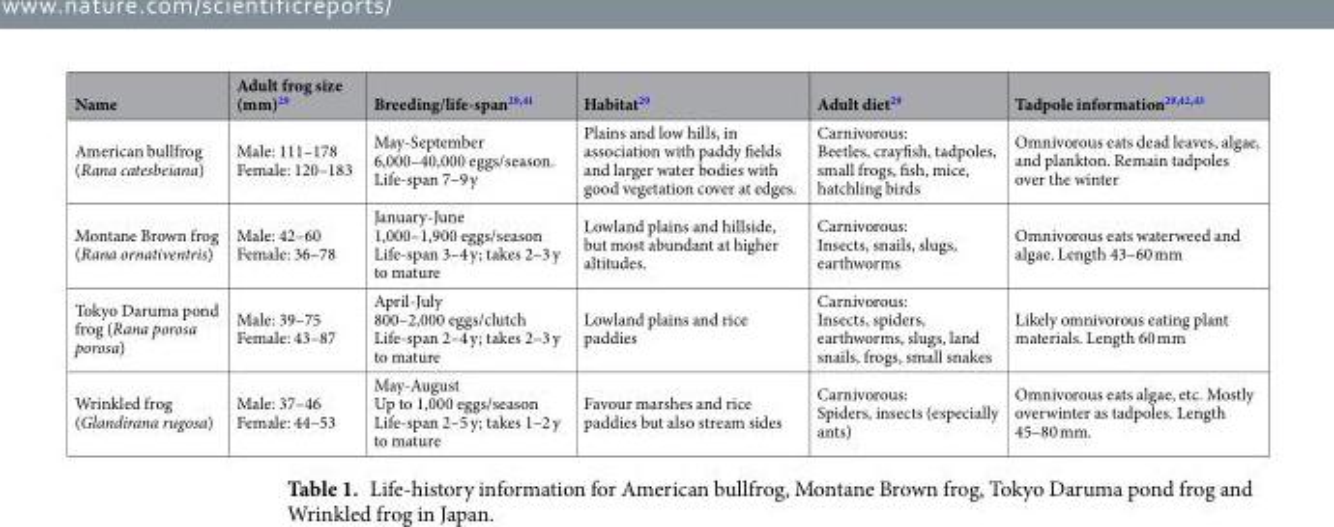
<table><thead><tr><td>Name</td><td>Adult frog size (mm)<sup>29</sup></td><td>Breeding/life-span<sup>29,41</sup></td><td>Habitat<sup>29</sup></td><td>Adult diet<sup>29</sup></td><td>Tadpole information<sup>29,42,43</sup></td></tr></thead><tbody><tr><td>American bullfrog (Rana catesbeiana)</td><td>Male: 111–178 Female: 120–183</td><td>May-September 6,000–40,000 eggs/season. Life-span 7–9 y</td><td>Plains and low hills, in association with paddy fields and larger water bodies with good vegetation cover at edges.</td><td>Carnivorous: Beetles, crayfish, tadpoles, small frogs, fish, mice, hatchling birds</td><td>Omnivorous eats dead leaves, algae, and plankton. Remain tadpoles over the winter</td></tr><tr><td>Montane Brown frog (Rana ornativentris)</td><td>Male: 42–60 Female: 36–78</td><td>January-June 1,000–1,900 eggs/season Life-span 3–4 y; takes 2–3 y to mature</td><td>Lowland plains and hillside, but most abundant at higher altitudes.</td><td>Carnivorous: Insects, snails, slugs, earthworms</td><td>Omnivorous eats waterweed and algae. Length 43–60 mm</td></tr><tr><td>Tokyo Daruma pond frog (Rana porosa porosa)</td><td>Male: 39–75 Female: 43–87</td><td>April-July 800–2,000 eggs/clutch Life-span 2–4 y; takes 2–3 y to mature</td><td>Lowland plains and rice paddies</td><td>Carnivorous: Insects, spiders, earthworms, slugs, land snails, frogs, small snakes</td><td>Likely omnivorous eating plant materials. Length 60 mm</td></tr><tr><td>Wrinkled frog (Glandirana rugosa)</td><td>Male: 37–46 Female: 44–53</td><td>May-August Up to 1,000 eggs/season Life-span 2–5 y; takes 1–2 y to mature</td><td>Favour marshes and rice paddies but also stream sides</td><td>Carnivorous: Spiders, insects (especially ants)</td><td>Omnivorous eats algae, etc. Mostly overwinter as tadpoles. Length 45–80 mm.</td></tr></tbody></table>